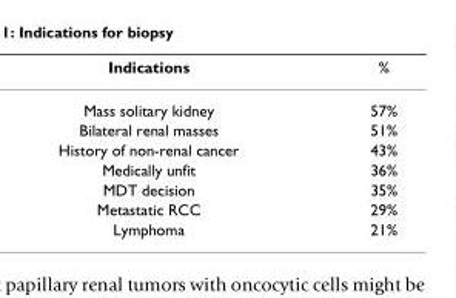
<table><thead><tr><td>Indications</td><td>%</td></tr></thead><tbody><tr><td>Mass solitary kidney</td><td>57%</td></tr><tr><td>Bilateral renal masses</td><td>51%</td></tr><tr><td>History of non-renal cancer</td><td>43%</td></tr><tr><td>Medically unfit</td><td>36%</td></tr><tr><td>MDT decision</td><td>35%</td></tr><tr><td>Metastatic RCC</td><td>29%</td></tr><tr><td>Lymphoma</td><td>21%</td></tr></tbody></table>